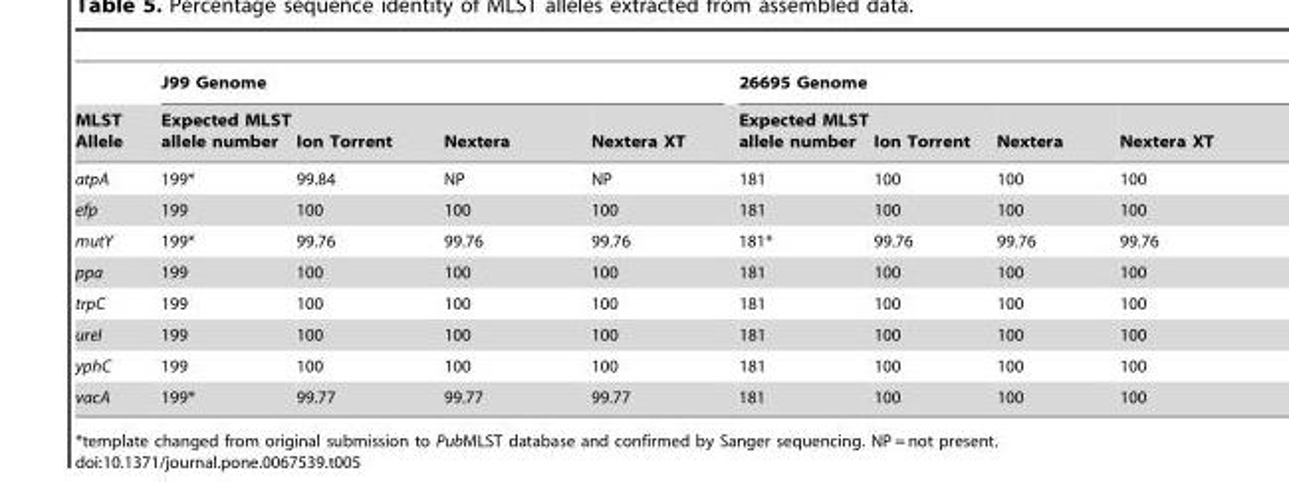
<table><thead><tr><td rowspan="2">MLST Allele</td><td colspan="4">J99 Genome</td><td colspan="4">26695 Genome</td></tr><tr><td>Expected MLST allele number</td><td>Ion Torrent</td><td>Nextera</td><td>Nextera XT</td><td>Expected MLST allele number</td><td>Ion Torrent</td><td>Nextera</td><td>Nextera XT</td></tr></thead><tbody><tr><td>atpA</td><td>199*</td><td>99.84</td><td>NP</td><td>NP</td><td>181</td><td>100</td><td>100</td><td>100</td></tr><tr><td>efp</td><td>199</td><td>100</td><td>100</td><td>100</td><td>181</td><td>100</td><td>100</td><td>100</td></tr><tr><td>mutY</td><td>199*</td><td>99.76</td><td>99.76</td><td>99.76</td><td>181*</td><td>99.76</td><td>99.76</td><td>99.76</td></tr><tr><td>ppa</td><td>199</td><td>100</td><td>100</td><td>100</td><td>181</td><td>100</td><td>100</td><td>100</td></tr><tr><td>trpC</td><td>199</td><td>100</td><td>100</td><td>100</td><td>181</td><td>100</td><td>100</td><td>100</td></tr><tr><td>ureI</td><td>199</td><td>100</td><td>100</td><td>100</td><td>181</td><td>100</td><td>100</td><td>100</td></tr><tr><td>yphC</td><td>199</td><td>100</td><td>100</td><td>100</td><td>181</td><td>100</td><td>100</td><td>100</td></tr><tr><td>vacA</td><td>199*</td><td>99.77</td><td>99.77</td><td>99.77</td><td>181</td><td>100</td><td>100</td><td>100</td></tr></tbody></table>